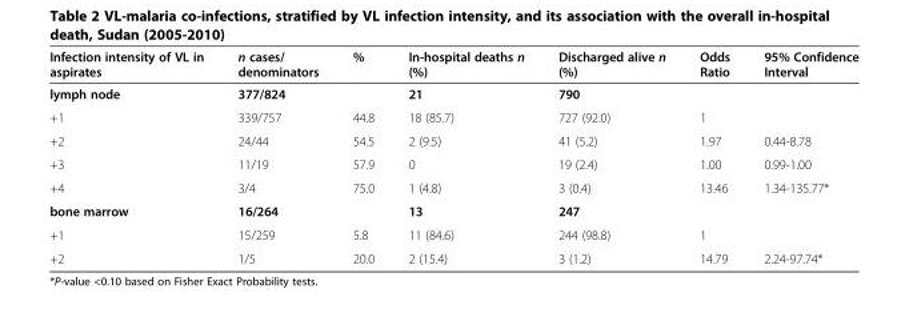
<table><thead><tr><td>Infection intensity of VL in aspirates</td><td>n cases/ denominators</td><td>%</td><td>In-hospital deaths n (%)</td><td>Discharged alive n (%)</td><td>Odds Ratio</td><td>95% Confidence Interval</td></tr></thead><tbody><tr><td>lymph node</td><td>377/824</td><td></td><td>21</td><td>790</td><td></td><td></td></tr><tr><td>+1</td><td>339/757</td><td>44.8</td><td>18 (85.7)</td><td>727 (92.0)</td><td>1</td><td></td></tr><tr><td>+2</td><td>24/44</td><td>54.5</td><td>2 (9.5)</td><td>41 (5.2)</td><td>1.97</td><td>0.44-8.78</td></tr><tr><td>+3</td><td>11/19</td><td>57.9</td><td>0</td><td>19 (2.4)</td><td>1.00</td><td>0.99-1.00</td></tr><tr><td>+4</td><td>3/4</td><td>75.0</td><td>1 (4.8)</td><td>3 (0.4)</td><td>13.46</td><td>1.34-135.77*</td></tr><tr><td>bone marrow</td><td>16/264</td><td></td><td>13</td><td>247</td><td></td><td></td></tr><tr><td>+1</td><td>15/259</td><td>5.8</td><td>11 (84.6)</td><td>244 (98.8)</td><td>1</td><td></td></tr><tr><td>+2</td><td>1/5</td><td>20.0</td><td>2 (15.4)</td><td>3 (1.2)</td><td>14.79</td><td>2.24-97.74*</td></tr></tbody></table>